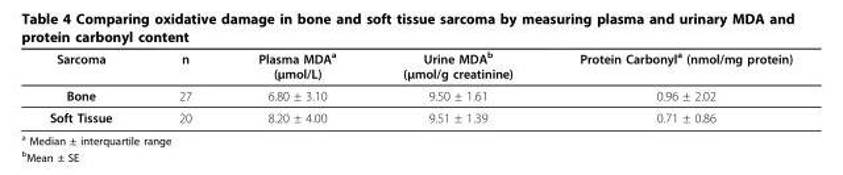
<table><thead><tr><td>Sarcoma</td><td>n</td><td>Plasma MDA<sup>a</sup> (μmol/L)</td><td>Urine MDA<sup>b</sup> (μmol/g creatinine)</td><td>Protein Carbonyl<sup>a</sup> (nmol/mg protein)</td></tr></thead><tbody><tr><td>Bone</td><td>27</td><td>6.80 ± 3.10</td><td>9.50 ± 1.61</td><td>0.96 ± 2.02</td></tr><tr><td>Soft Tissue</td><td>20</td><td>8.20 ± 4.00</td><td>9.51 ± 1.39</td><td>0.71 ± 0.86</td></tr></tbody></table>